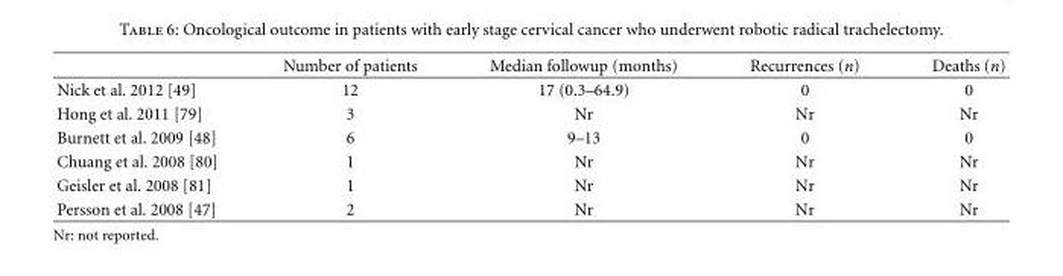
<table><thead><tr><td></td><td>Number of patients</td><td>Median followup (months)</td><td>Recurrences (n)</td><td>Deaths (n)</td></tr></thead><tbody><tr><td>Nick et al. 2012 [49]</td><td>12</td><td>17 (0.3–64.9)</td><td>0</td><td>0</td></tr><tr><td>Hong et al. 2011 [79]</td><td>3</td><td>Nr</td><td>Nr</td><td>Nr</td></tr><tr><td>Burnett et al. 2009 [48]</td><td>6</td><td>9–13</td><td>0</td><td>0</td></tr><tr><td>Chuang et al. 2008 [80]</td><td>1</td><td>Nr</td><td>Nr</td><td>Nr</td></tr><tr><td>Geisler et al. 2008 [81]</td><td>1</td><td>Nr</td><td>Nr</td><td>Nr</td></tr><tr><td>Persson et al. 2008 [47]</td><td>2</td><td>Nr</td><td>Nr</td><td>Nr</td></tr></tbody></table>